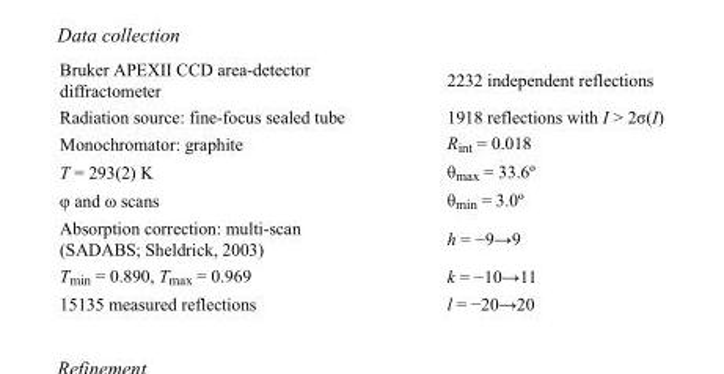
<table><tbody><tr><td>Bruker APEXII CCD area-detector diffractometer</td><td>2232 independent reflections</td></tr><tr><td>Radiation source: fine-focus sealed tube</td><td>1918 reflections with I &gt; 2σ(I)</td></tr><tr><td>Monochromator: graphite</td><td>R<sub>int</sub> = 0.018</td></tr><tr><td>T = 293(2) K</td><td>θ<sub>max</sub> = 33.6º</td></tr><tr><td>φ and ω scans</td><td>θ<sub>min</sub> = 3.0º</td></tr><tr><td>Absorption correction: multi-scan (SADABS; Sheldrick, 2003)</td><td>h = −9→9</td></tr><tr><td>T<sub>min</sub> = 0.890, T<sub>max</sub> = 0.969</td><td>k = −10→11</td></tr><tr><td>15135 measured reflections</td><td>l = −20→20</td></tr></tbody></table>